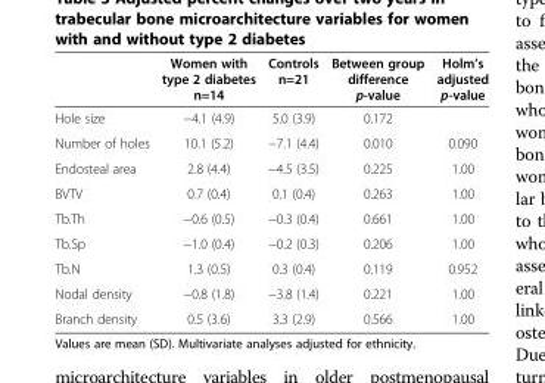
<table><thead><tr><td></td><td>Women with type 2 diabetes n=14</td><td>Controls n=21</td><td>Between group difference p-value</td><td>Holm’s adjusted p-value</td></tr></thead><tbody><tr><td>Hole size</td><td>−4.1 (4.9)</td><td>5.0 (3.9)</td><td>0.172</td><td></td></tr><tr><td>Number of holes</td><td>10.1 (5.2)</td><td>−7.1 (4.4)</td><td>0.010</td><td>0.090</td></tr><tr><td>Endosteal area</td><td>2.8 (4.4)</td><td>−4.5 (3.5)</td><td>0.225</td><td>1.00</td></tr><tr><td>BVTV</td><td>0.7 (0.4)</td><td>0.1 (0.4)</td><td>0.263</td><td>1.00</td></tr><tr><td>Tb.Th</td><td>−0.6 (0.5)</td><td>−0.3 (0.4)</td><td>0.661</td><td>1.00</td></tr><tr><td>Tb.Sp</td><td>−1.0 (0.4)</td><td>−0.2 (0.3)</td><td>0.206</td><td>1.00</td></tr><tr><td>Tb.N</td><td>1.3 (0.5)</td><td>0.3 (0.4)</td><td>0.119</td><td>0.952</td></tr><tr><td>Nodal density</td><td>−0.8 (1.8)</td><td>−3.8 (1.4)</td><td>0.221</td><td>1.00</td></tr><tr><td>Branch density</td><td>0.5 (3.6)</td><td>3.3 (2.9)</td><td>0.566</td><td>1.00</td></tr></tbody></table>